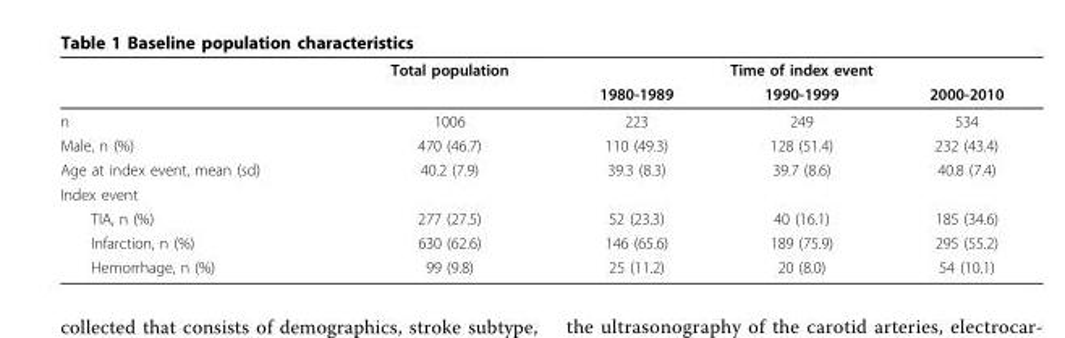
<table><thead><tr><td rowspan="2"></td><td rowspan="2">Total population</td><td colspan="3">Time of index event</td></tr><tr><td>1980-1989</td><td>1990-1999</td><td>2000-2010</td></tr></thead><tbody><tr><td>n</td><td>1006</td><td>223</td><td>249</td><td>534</td></tr><tr><td>Male, n (%)</td><td>470 (46.7)</td><td>110 (49.3)</td><td>128 (51.4)</td><td>232 (43.4)</td></tr><tr><td>Age at index event, mean (sd)</td><td>40.2 (7.9)</td><td>39.3 (8.3)</td><td>39.7 (8.6)</td><td>40.8 (7.4)</td></tr><tr><td colspan="5">Index event</td></tr><tr><td>TIA, n (%)</td><td>277 (27.5)</td><td>52 (23.3)</td><td>40 (16.1)</td><td>185 (34.6)</td></tr><tr><td>Infarction, n (%)</td><td>630 (62.6)</td><td>146 (65.6)</td><td>189 (75.9)</td><td>295 (55.2)</td></tr><tr><td>Hemorrhage, n (%)</td><td>99 (9.8)</td><td>25 (11.2)</td><td>20 (8.0)</td><td>54 (10.1)</td></tr></tbody></table>